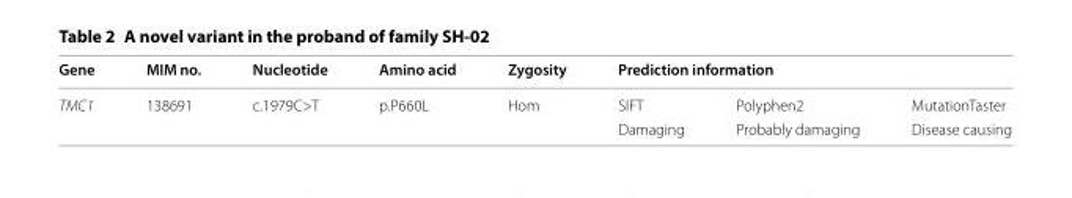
<table><thead><tr><td rowspan="2">Gene TMC1</td><td rowspan="2">MIM no. 138691</td><td rowspan="2">Nucleotide c.1979C&gt;T</td><td rowspan="2">Amino acid p.P660L</td><td rowspan="2">Zygosity Hom</td><td colspan="3">Prediction information</td></tr><tr><td>SIFT</td><td>Polyphen2</td><td>MutationTaster</td></tr></thead><tbody><tr><td></td><td></td><td></td><td></td><td></td><td>Damaging</td><td>Probably damaging</td><td>Disease causing</td></tr></tbody></table>